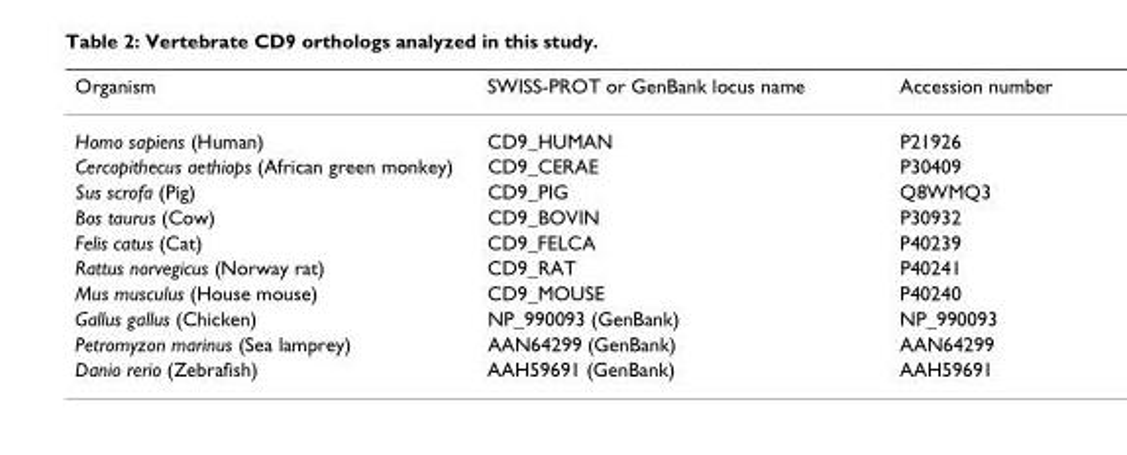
<table><thead><tr><td>Organism</td><td>SWISS-PROT or GenBank locus name</td><td>Accession number</td></tr></thead><tbody><tr><td>Homo sapiens (Human)</td><td>CD9_HUMAN</td><td>P21926</td></tr><tr><td>Cercopithecus aethiops (African green monkey)</td><td>CD9_CERAE</td><td>P30409</td></tr><tr><td>Sus scrofa (Pig)</td><td>CD9_PIG</td><td>Q8WMQ3</td></tr><tr><td>Bos taurus (Cow)</td><td>CD9_BOVIN</td><td>P30932</td></tr><tr><td>Felis catus (Cat)</td><td>CD9_FELCA</td><td>P40239</td></tr><tr><td>Rattus norvegicus (Norway rat)</td><td>CD9_RAT</td><td>P40241</td></tr><tr><td>Mus musculus (House mouse)</td><td>CD9_MOUSE</td><td>P40240</td></tr><tr><td>Gallus gallus (Chicken)</td><td>NP_990093 (GenBank)</td><td>NP_990093</td></tr><tr><td>Petromyzon marinus (Sea lamprey)</td><td>AAN64299 (GenBank)</td><td>AAN64299</td></tr><tr><td>Danio rerio (Zebrafish)</td><td>AAH59691 (GenBank)</td><td>AAH59691</td></tr></tbody></table>